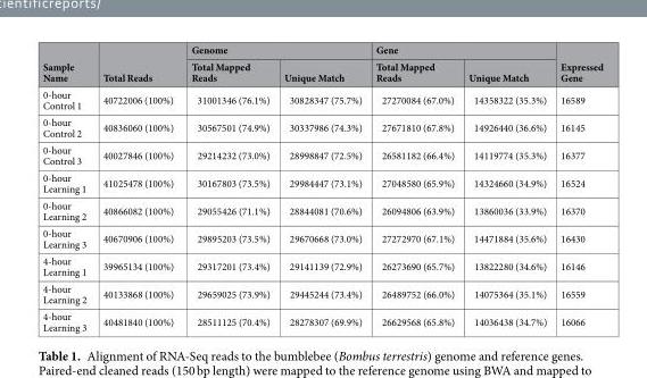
<table><thead><tr><td rowspan="2">Sample Name</td><td rowspan="2">Total Reads</td><td colspan="2">Genome</td><td colspan="2">Gene</td><td rowspan="2">Expressed Gene</td></tr><tr><td>Total Mapped Reads</td><td>Unique Match</td><td>Total Mapped Reads</td><td>Unique Match</td></tr></thead><tbody><tr><td>0-hour Control 1</td><td>40722006 (100%)</td><td>31001346 (76.1%)</td><td>30828347 (75.7%)</td><td>27270084 (67.0%)</td><td>14358322 (35.3%)</td><td>16589</td></tr><tr><td>0-hour Control 2</td><td>40836060 (100%)</td><td>30567501 (74.9%)</td><td>30337986 (74.3%)</td><td>27671810 (67.8%)</td><td>14926440 (36.6%)</td><td>16145</td></tr><tr><td>0-hour Control 3</td><td>40027846 (100%)</td><td>29214232 (73.0%)</td><td>28998847 (72.5%)</td><td>26581182 (66.4%)</td><td>14119774 (35.3%)</td><td>16377</td></tr><tr><td>0-hour Learning 1</td><td>41025478 (100%)</td><td>30167803 (73.5%)</td><td>29984447 (73.1%)</td><td>27048580 (65.9%)</td><td>14324660 (34.9%)</td><td>16524</td></tr><tr><td>0-hour Learning 2</td><td>40866082 (100%)</td><td>29055426 (71.1%)</td><td>28844081 (70.6%)</td><td>26094806 (63.9%)</td><td>13860036 (33.9%)</td><td>16370</td></tr><tr><td>0-hour Learning 3</td><td>40670906 (100%)</td><td>29895203 (73.5%)</td><td>29670668 (73.0%)</td><td>27272970 (67.1%)</td><td>14471884 (35.6%)</td><td>16430</td></tr><tr><td>4-hour Learning 1</td><td>39965134 (100%)</td><td>29317201 (73.4%)</td><td>29141139 (72.9%)</td><td>26273690 (65.7%)</td><td>13822280 (34.6%)</td><td>16146</td></tr><tr><td>4-hour Learning 2</td><td>40133868 (100%)</td><td>29659025 (73.9%)</td><td>29445244 (73.4%)</td><td>26489752 (66.0%)</td><td>14075364 (35.1%)</td><td>16559</td></tr><tr><td>4-hour Learning 3</td><td>40481840 (100%)</td><td>28511125 (70.4%)</td><td>28278307 (69.9%)</td><td>26629568 (65.8%)</td><td>14036438 (34.7%)</td><td>16066</td></tr></tbody></table>